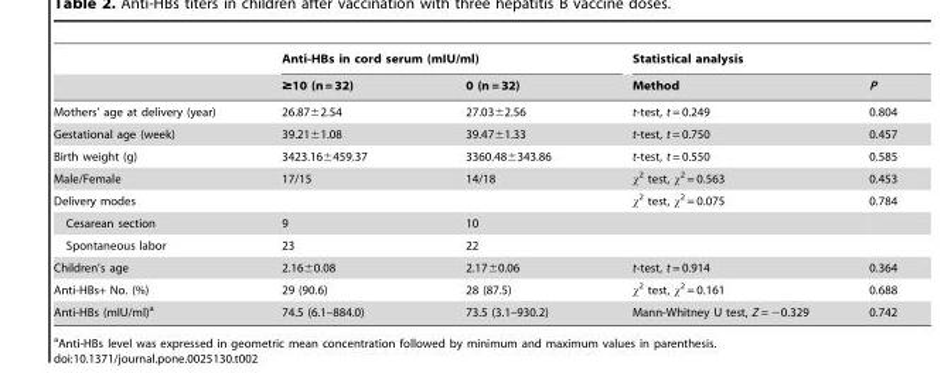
<table><thead><tr><td rowspan="2"></td><td colspan="2">Anti-HBs in cord serum (mIU/ml)</td><td colspan="2">Statistical analysis</td></tr><tr><td>≥10 (n = 32)</td><td>0 (n = 32)</td><td>Method</td><td>P</td></tr></thead><tbody><tr><td>Mothers’ age at delivery (year)</td><td>26.87±2.54</td><td>27.03±2.56</td><td>t-test, t = 0.249</td><td>0.804</td></tr><tr><td>Gestational age (week)</td><td>39.21±1.08</td><td>39.47±1.33</td><td>t-test, t = 0.750</td><td>0.457</td></tr><tr><td>Birth weight (g)</td><td>3423.16±459.37</td><td>3360.48±343.86</td><td>t-test, t = 0.550</td><td>0.585</td></tr><tr><td>Male/Female</td><td>17/15</td><td>14/18</td><td>χ<sup>2</sup> test, χ<sup>2</sup> = 0.563</td><td>0.453</td></tr><tr><td>Delivery modes</td><td></td><td></td><td>χ<sup>2</sup> test, χ<sup>2</sup> = 0.075</td><td>0.784</td></tr><tr><td>Cesarean section</td><td>9</td><td>10</td><td></td><td></td></tr><tr><td>Spontaneous labor</td><td>23</td><td>22</td><td></td><td></td></tr><tr><td>Children’s age</td><td>2.16±0.08</td><td>2.17±0.06</td><td>t-test, t = 0.914</td><td>0.364</td></tr><tr><td>Anti-HBs+ No. (%)</td><td>29 (90.6)</td><td>28 (87.5)</td><td>χ<sup>2</sup> test, χ<sup>2</sup> = 0.161</td><td>0.688</td></tr><tr><td>Anti-HBs (mIU/ml)<sup>a</sup></td><td>74.5 (6.1–884.0)</td><td>73.5 (3.1–930.2)</td><td>Mann-Whitney U test, Z = −0.329</td><td>0.742</td></tr></tbody></table>